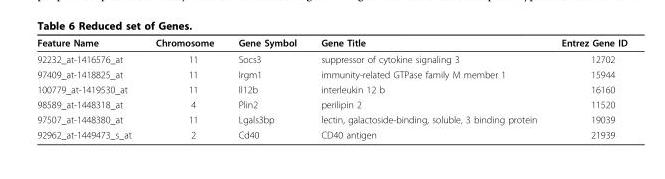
<table><thead><tr><td>Feature Name</td><td>Chromosome</td><td>Gene Symbol</td><td>Gene Title</td><td>Entrez Gene ID</td></tr></thead><tbody><tr><td>92232_at-1416576_at</td><td>11</td><td>Socs3</td><td>suppressor of cytokine signaling 3</td><td>12702</td></tr><tr><td>97409_at-1418825_at</td><td>11</td><td>Irgm1</td><td>immunity-related GTPase family M member 1</td><td>15944</td></tr><tr><td>100779_at-1419530_at</td><td>11</td><td>Il12b</td><td>interleukin 12 b</td><td>16160</td></tr><tr><td>98589_at-1448318_at</td><td>4</td><td>Plin2</td><td>perilipin 2</td><td>11520</td></tr><tr><td>97507_at-1448380_at</td><td>11</td><td>Lgals3bp</td><td>lectin, galactoside-binding, soluble, 3 binding protein</td><td>19039</td></tr><tr><td>92962_at-1449473_s_at</td><td>2</td><td>Cd40</td><td>CD40 antigen</td><td>21939</td></tr></tbody></table>